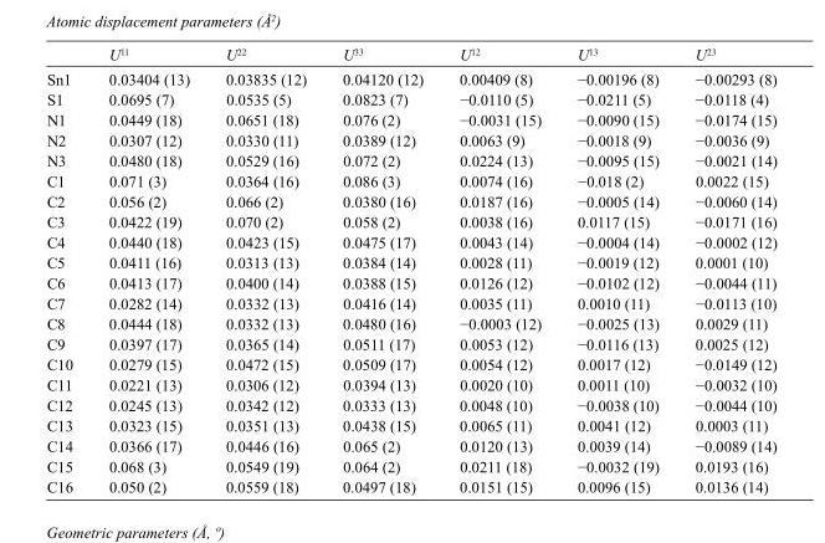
<table><thead><tr><td></td><td>U<sup>11</sup></td><td>U<sup>22</sup></td><td>U<sup>33</sup></td><td>U<sup>12</sup></td><td>U<sup>13</sup></td><td>U<sup>23</sup></td></tr></thead><tbody><tr><td>Sn1</td><td>0.03404 (13)</td><td>0.03835 (12)</td><td>0.04120 (12)</td><td>0.00409 (8)</td><td>−0.00196 (8)</td><td>−0.00293 (8)</td></tr><tr><td>S1</td><td>0.0695 (7)</td><td>0.0535 (5)</td><td>0.0823 (7)</td><td>−0.0110 (5)</td><td>−0.0211 (5)</td><td>−0.0118 (4)</td></tr><tr><td>N1</td><td>0.0449 (18)</td><td>0.0651 (18)</td><td>0.076 (2)</td><td>−0.0031 (15)</td><td>−0.0090 (15)</td><td>−0.0174 (15)</td></tr><tr><td>N2</td><td>0.0307 (12)</td><td>0.0330 (11)</td><td>0.0389 (12)</td><td>0.0063 (9)</td><td>−0.0018 (9)</td><td>−0.0036 (9)</td></tr><tr><td>N3</td><td>0.0480 (18)</td><td>0.0529 (16)</td><td>0.072 (2)</td><td>0.0224 (13)</td><td>−0.0095 (15)</td><td>−0.0021 (14)</td></tr><tr><td>C1</td><td>0.071 (3)</td><td>0.0364 (16)</td><td>0.086 (3)</td><td>0.0074 (16)</td><td>−0.018 (2)</td><td>0.0022 (15)</td></tr><tr><td>C2</td><td>0.056 (2)</td><td>0.066 (2)</td><td>0.0380 (16)</td><td>0.0187 (16)</td><td>−0.0005 (14)</td><td>−0.0060 (14)</td></tr><tr><td>C3</td><td>0.0422 (19)</td><td>0.070 (2)</td><td>0.058 (2)</td><td>0.0038 (16)</td><td>0.0117 (15)</td><td>−0.0171 (16)</td></tr><tr><td>C4</td><td>0.0440 (18)</td><td>0.0423 (15)</td><td>0.0475 (17)</td><td>0.0043 (14)</td><td>−0.0004 (14)</td><td>−0.0002 (12)</td></tr><tr><td>C5</td><td>0.0411 (16)</td><td>0.0313 (13)</td><td>0.0384 (14)</td><td>0.0028 (11)</td><td>−0.0019 (12)</td><td>0.0001 (10)</td></tr><tr><td>C6</td><td>0.0413 (17)</td><td>0.0400 (14)</td><td>0.0388 (15)</td><td>0.0126 (12)</td><td>−0.0102 (12)</td><td>−0.0044 (11)</td></tr><tr><td>C7</td><td>0.0282 (14)</td><td>0.0332 (13)</td><td>0.0416 (14)</td><td>0.0035 (11)</td><td>0.0010 (11)</td><td>−0.0113 (10)</td></tr><tr><td>C8</td><td>0.0444 (18)</td><td>0.0332 (13)</td><td>0.0480 (16)</td><td>−0.0003 (12)</td><td>−0.0025 (13)</td><td>0.0029 (11)</td></tr><tr><td>C9</td><td>0.0397 (17)</td><td>0.0365 (14)</td><td>0.0511 (17)</td><td>0.0053 (12)</td><td>−0.0116 (13)</td><td>0.0025 (12)</td></tr><tr><td>C10</td><td>0.0279 (15)</td><td>0.0472 (15)</td><td>0.0509 (17)</td><td>0.0054 (12)</td><td>0.0017 (12)</td><td>−0.0149 (12)</td></tr><tr><td>C11</td><td>0.0221 (13)</td><td>0.0306 (12)</td><td>0.0394 (13)</td><td>0.0020 (10)</td><td>0.0011 (10)</td><td>−0.0032 (10)</td></tr><tr><td>C12</td><td>0.0245 (13)</td><td>0.0342 (12)</td><td>0.0333 (13)</td><td>0.0048 (10)</td><td>−0.0038 (10)</td><td>−0.0044 (10)</td></tr><tr><td>C13</td><td>0.0323 (15)</td><td>0.0351 (13)</td><td>0.0438 (15)</td><td>0.0065 (11)</td><td>0.0041 (12)</td><td>0.0003 (11)</td></tr><tr><td>C14</td><td>0.0366 (17)</td><td>0.0446 (16)</td><td>0.065 (2)</td><td>0.0120 (13)</td><td>0.0039 (14)</td><td>−0.0089 (14)</td></tr><tr><td>C15</td><td>0.068 (3)</td><td>0.0549 (19)</td><td>0.064 (2)</td><td>0.0211 (18)</td><td>−0.0032 (19)</td><td>0.0193 (16)</td></tr><tr><td>C16</td><td>0.050 (2)</td><td>0.0559 (18)</td><td>0.0497 (18)</td><td>0.0151 (15)</td><td>0.0096 (15)</td><td>0.0136 (14)</td></tr></tbody></table>